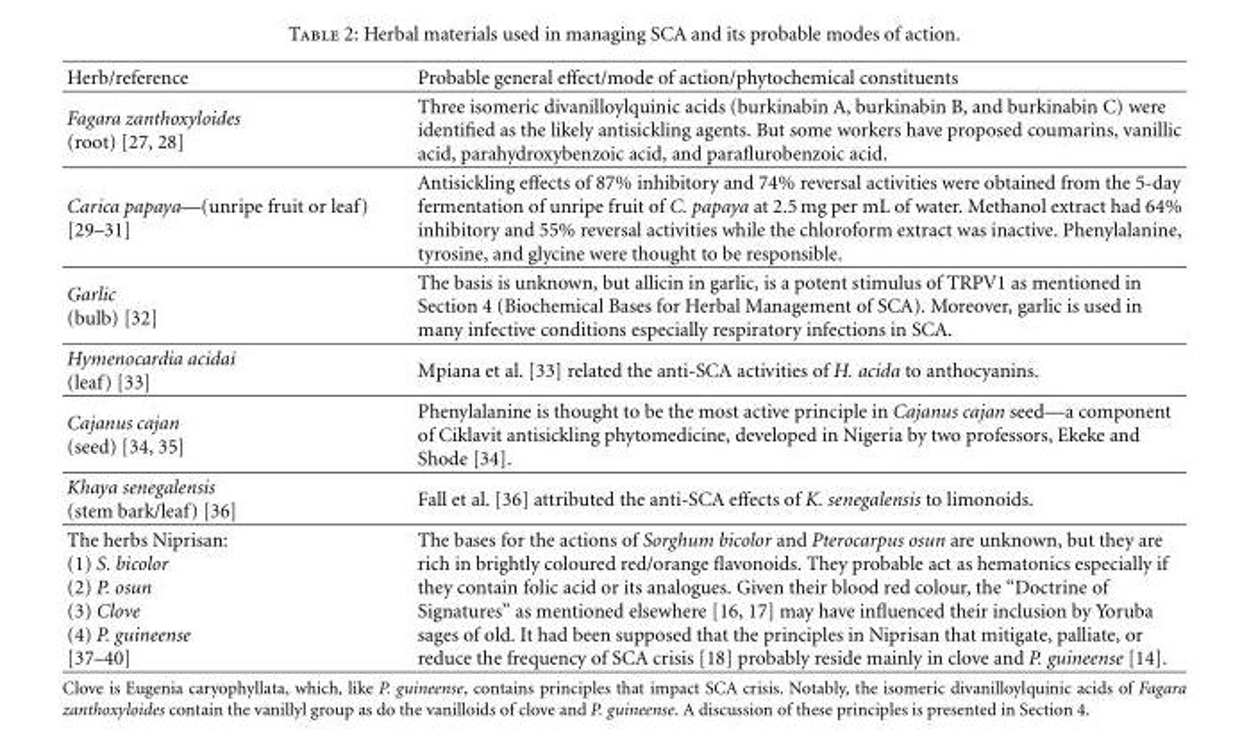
<table><thead><tr><td>Herb/reference</td><td>Probable general effect/mode of action/phytochemical constituents</td></tr></thead><tbody><tr><td>Fagara zanthoxyloides (root) [27, 28]</td><td>Three isomeric divanilloylquinic acids (burkinabin A, burkinabin B, and burkinabin C) were identified as the likely antisickling agents. But some workers have proposed coumarins, vanillic acid, parahydroxybenzoic acid, and paraflurobenzoic acid.</td></tr><tr><td>Carica papaya—(unripe fruit or leaf) [29–31]</td><td>Antisickling effects of 87% inhibitory and 74% reversal activities were obtained from the 5-day fermentation of unripe fruit of C. papaya at 2.5 mg per mL of water. Methanol extract had 64% inhibitory and 55% reversal activities while the chloroform extract was inactive. Phenylalanine, tyrosine, and glycine were thought to be responsible.</td></tr><tr><td>Garlic (bulb) [32]</td><td>The basis is unknown, but allicin in garlic, is a potent stimulus of TRPV1 as mentioned in Section 4 (Biochemical Bases for Herbal Management of SCA). Moreover, garlic is used in many infective conditions especially respiratory infections in SCA.</td></tr><tr><td>Hymenocardia acidai (leaf) [33]</td><td>Mpiana et al. [33] related the anti-SCA activities of H. acida to anthocyanins.</td></tr><tr><td>Cajanus cajan (seed) [34, 35]</td><td>Phenylalanine is thought to be the most active principle in Cajanus cajan seed—a component of Ciklavit antisickling phytomedicine, developed in Nigeria by two professors, Ekeke and Shode [34].</td></tr><tr><td>Khaya senegalensis (stem bark/leaf) [36]</td><td>Fall et al. [36] attributed the anti-SCA effects of K. senegalensis to limonoids.</td></tr><tr><td>The herbs Niprisan: (1) S. bicolor (2) P. osun (3) Clove (4) P. guineense [37–40]</td><td>The bases for the actions of Sorghum bicolor and Pterocarpus osun are unknown, but they are rich in brightly coloured red/orange flavonoids. They probable act as hematonics especially if they contain folic acid or its analogues. Given their blood red colour, the “Doctrine of Signatures” as mentioned elsewhere [16, 17] may have influenced their inclusion by Yoruba sages of old. It had been supposed that the principles in Niprisan that mitigate, palliate, or reduce the frequency of SCA crisis [18] probably reside mainly in clove and P. guineense [14].</td></tr></tbody></table>